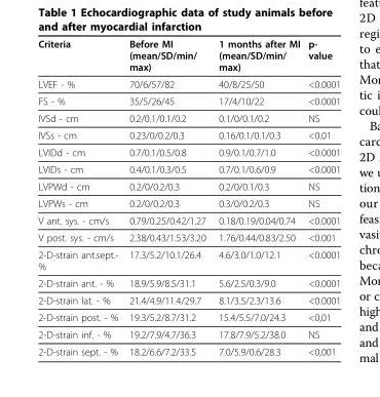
<table><thead><tr><td>Criteria</td><td>Before MI (mean/SD/min/ max)</td><td>1 months after MI (mean/SD/min/ max)</td><td>p- value</td></tr></thead><tbody><tr><td>LVEF - %</td><td>70/6/57/82</td><td>40/8/25/50</td><td>&lt;0.0001</td></tr><tr><td>FS - %</td><td>35/5/26/45</td><td>17/4/10/22</td><td>&lt;0.0001</td></tr><tr><td>IVSd - cm</td><td>0.2/0.1/0.1/0.2</td><td>0.1/0/0.1/0.2</td><td>NS</td></tr><tr><td>IVSs - cm</td><td>0.23/0/0.2/0.3</td><td>0.16/0.1/0.1/0.3</td><td>&lt;0.01</td></tr><tr><td>LVIDd - cm</td><td>0.7/0.1/0.5/0.8</td><td>0.9/0.1/0.7/1.0</td><td>&lt;0.0001</td></tr><tr><td>LVIDs - cm</td><td>0.4/0.1/0.3/0.5</td><td>0.7/0.1/0.6/0.9</td><td>&lt;0.0001</td></tr><tr><td>LVPWd - cm</td><td>0.2/0/0.2/0.3</td><td>0.2/0/0.1/0.3</td><td>NS</td></tr><tr><td>LVPWs - cm</td><td>0.2/0/0.2/0.3</td><td>0.3/0/0.2/0.3</td><td>NS</td></tr><tr><td>V ant. sys. - cm/s</td><td>0.79/0.25/0.42/1.27</td><td>0.18/0.19/0.04/0.74</td><td>&lt;0.0001</td></tr><tr><td>V post. sys. - cm/s</td><td>2.38/0.43/1.53/3.20</td><td>1.76/0.44/0.83/2.50</td><td>&lt;0.001</td></tr><tr><td>2-D-strain ant.sept.- %</td><td>17.3/5.2/10.1/26.4</td><td>4.6/3.0/1.0/12.1</td><td>&lt;0.0001</td></tr><tr><td>2-D-strain ant. - %</td><td>18.9/5.9/8.5/31.1</td><td>5.6/2.5/0.3/9.0</td><td>&lt;0.0001</td></tr><tr><td>2-D-strain lat. - %</td><td>21.4/4.9/11.4/29.7</td><td>8.1/3.5/2.3/13.6</td><td>&lt;0.0001</td></tr><tr><td>2-D-strain post. - %</td><td>19.3/5.2/8.7/31.2</td><td>15.4/5.5/7.0/24.3</td><td>&lt;0,01</td></tr><tr><td>2-D-strain inf. - %</td><td>19.2/7.9/4.7/36.3</td><td>17.8/7.9/5.2/38.0</td><td>NS</td></tr><tr><td>2-D-strain sept. - %</td><td>18.2/6.6/7.2/33.5</td><td>7.0/5.9/0.6/28.3</td><td>&lt;0,001</td></tr></tbody></table>